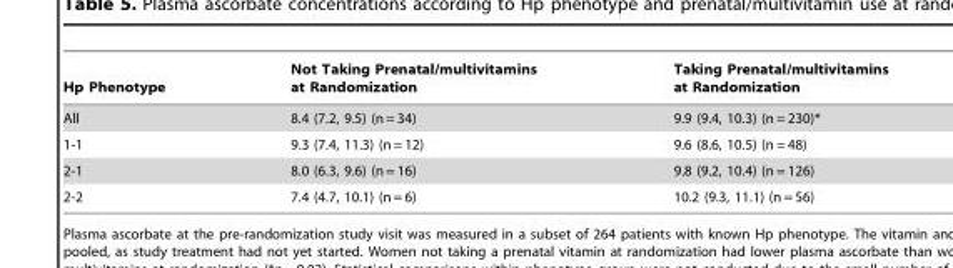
<table><thead><tr><td>Hp Phenotype</td><td>Not Taking Prenatal/multivitamins at Randomization</td><td>Taking Prenatal/multivitamins at Randomization</td></tr></thead><tbody><tr><td>All</td><td>8.4 (7.2, 9.5) (n = 34)</td><td>9.9 (9.4, 10.3) (n = 230)*</td></tr><tr><td>1-1</td><td>9.3 (7.4, 11.3) (n = 12)</td><td>9.6 (8.6, 10.5) (n = 48)</td></tr><tr><td>2-1</td><td>8.0 (6.3, 9.6) (n = 16)</td><td>9.8 (9.2, 10.4) (n = 126)</td></tr><tr><td>2-2</td><td>7.4 (4.7, 10.1) (n = 6)</td><td>10.2 (9.3, 11.1) (n = 56)</td></tr></tbody></table>